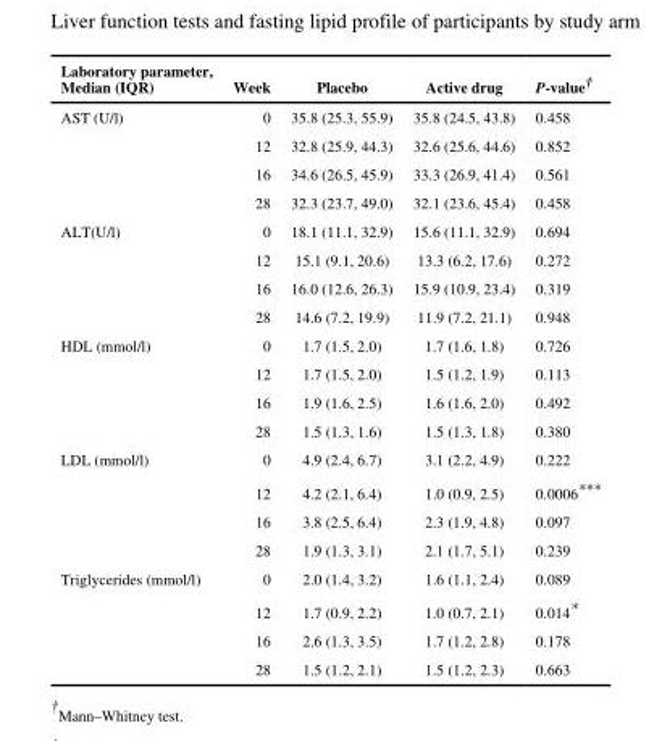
<table><thead><tr><td>Laboratory parameter, Median (IQR)</td><td>Week</td><td>Placebo</td><td>Active drug</td><td>P-value†</td></tr></thead><tbody><tr><td rowspan="4">AST (U/l)</td><td>0</td><td>35.8 (25.3, 55.9)</td><td>35.8 (24.5, 43.8)</td><td>0.458</td></tr><tr><td>12</td><td>32.8 (25.9, 44.3)</td><td>32.6 (25.6, 44.6)</td><td>0.852</td></tr><tr><td>16</td><td>34.6 (26.5, 45.9)</td><td>33.3 (26.9, 41.4)</td><td>0.561</td></tr><tr><td>28</td><td>32.3 (23.7, 49.0)</td><td>32.1 (23.6, 45.4)</td><td>0.458</td></tr><tr><td rowspan="4">ALT(U/l)</td><td>0</td><td>18.1 (11.1, 32.9)</td><td>15.6 (11.1, 32.9)</td><td>0.694</td></tr><tr><td>12</td><td>15.1 (9.1, 20.6)</td><td>13.3 (6.2, 17.6)</td><td>0.272</td></tr><tr><td>16</td><td>16.0 (12.6, 26.3)</td><td>15.9 (10.9, 23.4)</td><td>0.319</td></tr><tr><td>28</td><td>14.6 (7.2, 19.9)</td><td>11.9 (7.2, 21.1)</td><td>0.948</td></tr><tr><td rowspan="4">HDL (mmol/l)</td><td>0</td><td>1.7 (1.5, 2.0)</td><td>1.7 (1.6, 1.8)</td><td>0.726</td></tr><tr><td>12</td><td>1.7 (1.5, 2.0)</td><td>1.5 (1.2, 1.9)</td><td>0.113</td></tr><tr><td>16</td><td>1.9 (1.6, 2.5)</td><td>1.6 (1.6, 2.0)</td><td>0.492</td></tr><tr><td>28</td><td>1.5 (1.3, 1.6)</td><td>1.5 (1.3, 1.8)</td><td>0.380</td></tr><tr><td rowspan="4">LDL (mmol/l)</td><td>0</td><td>4.9 (2.4, 6.7)</td><td>3.1 (2.2, 4.9)</td><td>0.222</td></tr><tr><td>12</td><td>4.2 (2.1, 6.4)</td><td>1.0 (0.9, 2.5)</td><td>0.0006***</td></tr><tr><td>16</td><td>3.8 (2.5, 6.4)</td><td>2.3 (1.9, 4.8)</td><td>0.097</td></tr><tr><td>28</td><td>1.9 (1.3, 3.1)</td><td>2.1 (1.7, 5.1)</td><td>0.239</td></tr><tr><td rowspan="4">Triglycerides (mmol/l)</td><td>0</td><td>2.0 (1.4, 3.2)</td><td>1.6 (1.1, 2.4)</td><td>0.089</td></tr><tr><td>12</td><td>1.7 (0.9, 2.2)</td><td>1.0 (0.7, 2.1)</td><td>0.014*</td></tr><tr><td>16</td><td>2.6 (1.3, 3.5)</td><td>1.7 (1.2, 2.8)</td><td>0.178</td></tr><tr><td>28</td><td>1.5 (1.2, 2.1)</td><td>1.5 (1.2, 2.3)</td><td>0.663</td></tr></tbody></table>